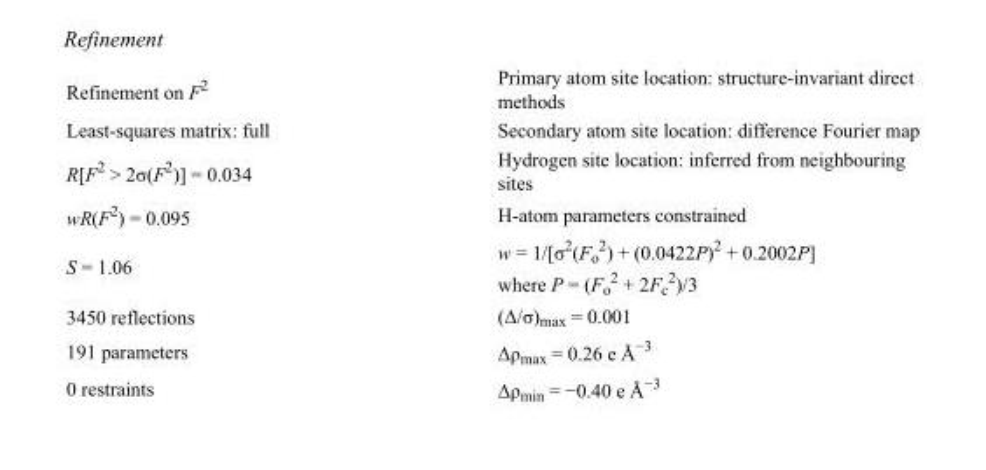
<table><tbody><tr><td>Refinement on F<sup>2</sup></td><td>Primary atom site location: structure-invariant direct methods</td></tr><tr><td>Least-squares matrix: full</td><td>Secondary atom site location: difference Fourier map</td></tr><tr><td>R[F<sup>2</sup> &gt; 2σ(F<sup>2</sup>)] = 0.034</td><td>Hydrogen site location: inferred from neighbouring sites</td></tr><tr><td>wR(F<sup>2</sup>) = 0.095</td><td>H-atom parameters constrained</td></tr><tr><td>S = 1.06</td><td>w = 1/[σ<sup>2</sup>(F<sub>o</sub> <sup>2</sup>) + (0.0422P)<sup>2</sup> + 0.2002P] where P = (F<sub>o</sub> <sup>2</sup> + 2F<sub>c</sub> <sup>2</sup>)/3</td></tr><tr><td>3450 reflections</td><td>(Δ/σ)<sub>max</sub> = 0.001</td></tr><tr><td>191 parameters</td><td>Δρ<sub>max</sub> = 0.26 e Å<sup>−3</sup></td></tr><tr><td>0 restraints</td><td>Δρ<sub>min</sub> = −0.40 e Å<sup>−3</sup></td></tr></tbody></table>